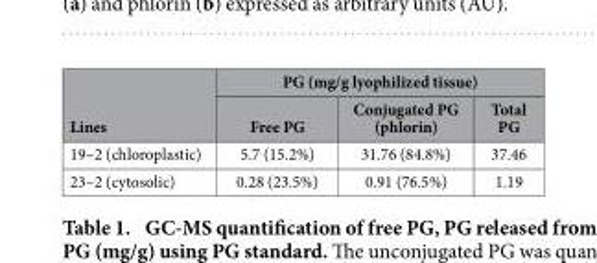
<table><thead><tr><td rowspan="2">Lines</td><td colspan="3">PG (mg/g lyophilized tissue)</td></tr><tr><td>Free PG</td><td>Conjugated PG (phlorin)</td><td>Total PG</td></tr></thead><tbody><tr><td>19–2 (chloroplastic)</td><td>5.7 (15.2%)</td><td>31.76 (84.8%)</td><td>37.46</td></tr><tr><td>23–2 (cytosolic)</td><td>0.28 (23.5%)</td><td>0.91 (76.5%)</td><td>1.19</td></tr></tbody></table>